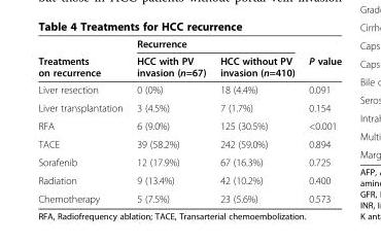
<table><thead><tr><td rowspan="2">Treatments on recurrence</td><td colspan="2">Recurrence</td><td rowspan="2">P value</td></tr><tr><td>HCC with PV invasion (n=67)</td><td>HCC without PV invasion (n=410)</td></tr></thead><tbody><tr><td>Liver resection</td><td>0 (0%)</td><td>18 (4.4%)</td><td>0.091</td></tr><tr><td>Liver transplantation</td><td>3 (4.5%)</td><td>7 (1.7%)</td><td>0.154</td></tr><tr><td>RFA</td><td>6 (9.0%)</td><td>125 (30.5%)</td><td>&lt;0.001</td></tr><tr><td>TACE</td><td>39 (58.2%)</td><td>242 (59.0%)</td><td>0.894</td></tr><tr><td>Sorafenib</td><td>12 (17.9%)</td><td>67 (16.3%)</td><td>0.725</td></tr><tr><td>Radiation</td><td>9 (13.4%)</td><td>42 (10.2%)</td><td>0.400</td></tr><tr><td>Chemotherapy</td><td>5 (7.5%)</td><td>23 (5.6%)</td><td>0.573</td></tr></tbody></table>